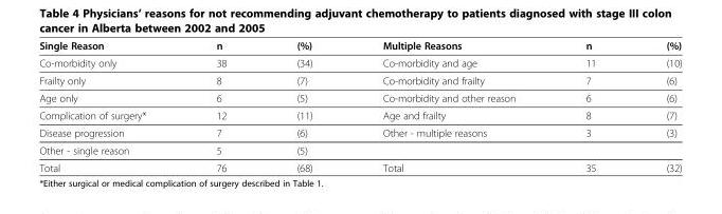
<table><thead><tr><td>Single Reason</td><td>n</td><td>(%)</td><td>Multiple Reasons</td><td>n</td><td>(%)</td></tr></thead><tbody><tr><td>Co-morbidity only</td><td>38</td><td>(34)</td><td>Co-morbidity and age</td><td>11</td><td>(10)</td></tr><tr><td>Frailty only</td><td>8</td><td>(7)</td><td>Co-morbidity and frailty</td><td>7</td><td>(6)</td></tr><tr><td>Age only</td><td>6</td><td>(5)</td><td>Co-morbidity and other reason</td><td>6</td><td>(6)</td></tr><tr><td>Complication of surgery*</td><td>12</td><td>(11)</td><td>Age and frailty</td><td>8</td><td>(7)</td></tr><tr><td>Disease progression</td><td>7</td><td>(6)</td><td>Other - multiple reasons</td><td>3</td><td>(3)</td></tr><tr><td>Other - single reason</td><td>5</td><td>(5)</td><td></td><td></td><td></td></tr><tr><td>Total</td><td>76</td><td>(68)</td><td>Total</td><td>35</td><td>(32)</td></tr></tbody></table>